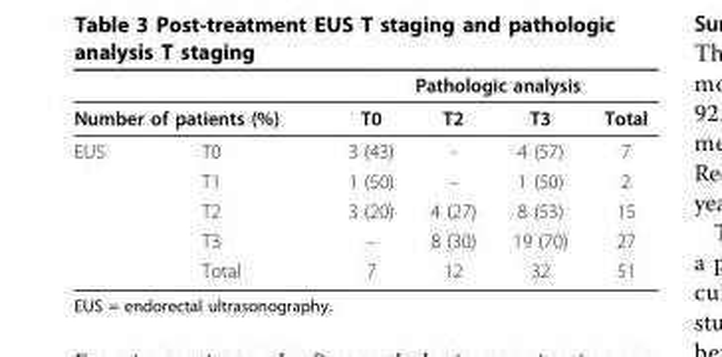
<table><thead><tr><td></td><td></td><td colspan="4">Pathologic analysis</td></tr><tr><td colspan="2">Number of patients (%)</td><td>T0</td><td>T2</td><td>T3</td><td>Total</td></tr></thead><tbody><tr><td rowspan="5">EUS</td><td>T0</td><td>3 (43)</td><td>-</td><td>4 (57)</td><td>7</td></tr><tr><td>T1</td><td>1 (50)</td><td>-</td><td>1 (50)</td><td>2</td></tr><tr><td>T2</td><td>3 (20)</td><td>4 (27)</td><td>8 (53)</td><td>15</td></tr><tr><td>T3</td><td>-</td><td>8 (30)</td><td>19 (70)</td><td>27</td></tr><tr><td>Total</td><td>7</td><td>12</td><td>32</td><td>51</td></tr></tbody></table>